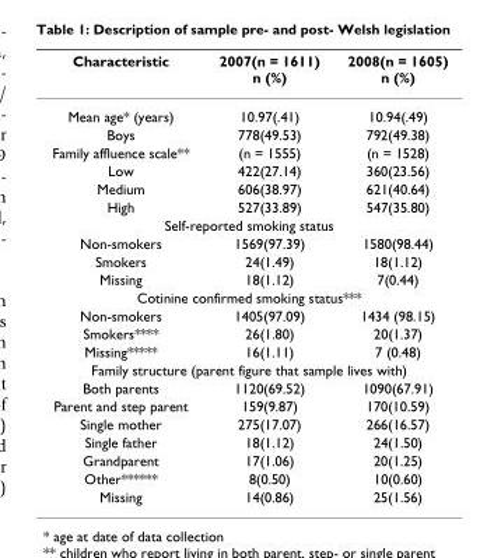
<table><thead><tr><td>Characteristic</td><td>2007(n = 1611) n (%)</td><td>2008(n = 1605) n (%)</td></tr></thead><tbody><tr><td>Mean age* (years)</td><td>10.97(.41)</td><td>10.94(.49)</td></tr><tr><td>Boys</td><td>778(49.53)</td><td>792(49.38)</td></tr><tr><td>Family affluence scale**</td><td>(n = 1555)</td><td>(n = 1528)</td></tr><tr><td>Low</td><td>422(27.14)</td><td>360(23.56)</td></tr><tr><td>Medium</td><td>606(38.97)</td><td>621(40.64)</td></tr><tr><td>High</td><td>527(33.89)</td><td>547(35.80)</td></tr><tr><td colspan="3">Self-reported smoking status</td></tr><tr><td>Non-smokers</td><td>1569(97.39)</td><td>1580(98.44)</td></tr><tr><td>Smokers</td><td>24(1.49)</td><td>18(1.12)</td></tr><tr><td>Missing</td><td>18(1.12)</td><td>7(0.44)</td></tr><tr><td colspan="3">Cotinine confirmed smoking status***</td></tr><tr><td>Non-smokers</td><td>1405(97.09)</td><td>1434 (98.15)</td></tr><tr><td>Smokers****</td><td>26(1.80)</td><td>20(1.37)</td></tr><tr><td>Missing*****</td><td>16(1.11)</td><td>7 (0.48)</td></tr><tr><td colspan="3">Family structure (parent figure that sample lives with)</td></tr><tr><td>Both parents</td><td>1120(69.52)</td><td>1090(67.91)</td></tr><tr><td>Parent and step parent</td><td>159(9.87)</td><td>170(10.59)</td></tr><tr><td>Single mother</td><td>275(17.07)</td><td>266(16.57)</td></tr><tr><td>Single father</td><td>18(1.12)</td><td>24(1.50)</td></tr><tr><td>Grandparent</td><td>17(1.06)</td><td>20(1.25)</td></tr><tr><td>Other******</td><td>8(0.50)</td><td>10(0.60)</td></tr><tr><td>Missing</td><td>14(0.86)</td><td>25(1.56)</td></tr></tbody></table>